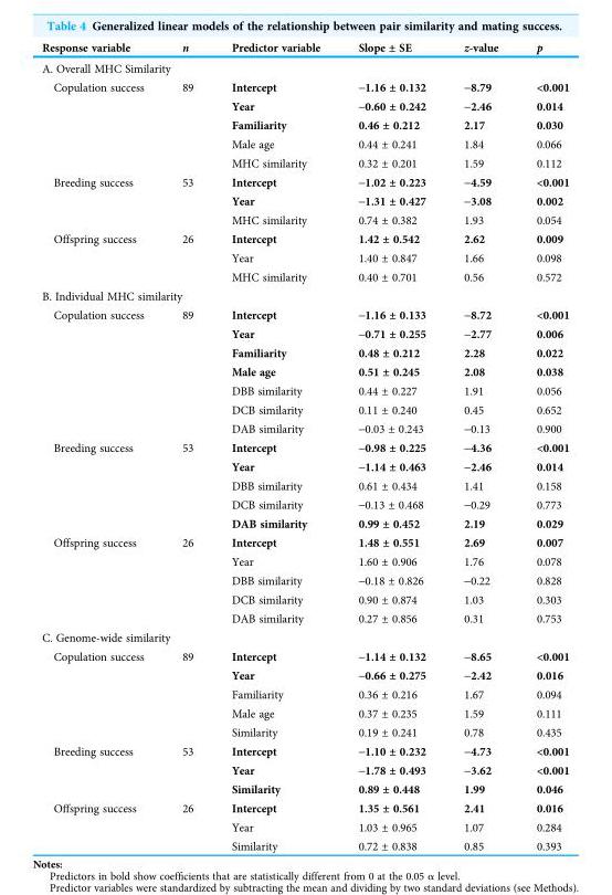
<table><thead><tr><td>Response variable</td><td>n</td><td>Predictor variable</td><td>Slope ± SE</td><td>z-value</td><td>p</td></tr></thead><tbody><tr><td colspan="6">A. Overall MHC Similarity</td></tr><tr><td rowspan="5">Copulation success</td><td>89</td><td>Intercept</td><td>-1.16 ± 0.132</td><td>-8.79</td><td>&lt;0.001</td></tr><tr><td></td><td>Year</td><td>-0.60 ± 0.242</td><td>-2.46</td><td>0.014</td></tr><tr><td></td><td>Familiarity</td><td>0.46 ± 0.212</td><td>2.17</td><td>0.030</td></tr><tr><td></td><td>Male age</td><td>0.44 ± 0.241</td><td>1.84</td><td>0.066</td></tr><tr><td></td><td>MHC similarity</td><td>0.32 ± 0.201</td><td>1.59</td><td>0.112</td></tr><tr><td rowspan="3">Breeding success</td><td>53</td><td>Intercept</td><td>-1.02 ± 0.223</td><td>-4.59</td><td>&lt;0.001</td></tr><tr><td></td><td>Year</td><td>-1.31 ± 0.427</td><td>-3.08</td><td>0.002</td></tr><tr><td></td><td>MHC similarity</td><td>0.74 ± 0.382</td><td>1.93</td><td>0.054</td></tr><tr><td rowspan="3">Offspring success</td><td>26</td><td>Intercept</td><td>1.42 ± 0.542</td><td>2.62</td><td>0.009</td></tr><tr><td></td><td>Year</td><td>1.40 ± 0.847</td><td>1.66</td><td>0.098</td></tr><tr><td></td><td>MHC similarity</td><td>0.40 ± 0.701</td><td>0.56</td><td>0.572</td></tr><tr><td colspan="6">B. Individual MHC similarity</td></tr><tr><td rowspan="7">Copulation success</td><td>89</td><td>Intercept</td><td>-1.16 ± 0.133</td><td>-8.72</td><td>&lt;0.001</td></tr><tr><td></td><td>Year</td><td>-0.71 ± 0.255</td><td>-2.77</td><td>0.006</td></tr><tr><td></td><td>Familiarity</td><td>0.48 ± 0.212</td><td>2.28</td><td>0.022</td></tr><tr><td></td><td>Male age</td><td>0.51 ± 0.245</td><td>2.08</td><td>0.038</td></tr><tr><td></td><td>DBB similarity</td><td>0.44 ± 0.227</td><td>1.91</td><td>0.056</td></tr><tr><td></td><td>DCB similarity</td><td>0.11 ± 0.240</td><td>0.45</td><td>0.652</td></tr><tr><td></td><td>DAB similarity</td><td>-0.03 ± 0.243</td><td>-0.13</td><td>0.900</td></tr><tr><td rowspan="5">Breeding success</td><td>53</td><td>Intercept</td><td>-0.98 ± 0.225</td><td>-4.36</td><td>&lt;0.001</td></tr><tr><td></td><td>Year</td><td>-1.14 ± 0.463</td><td>-2.46</td><td>0.014</td></tr><tr><td></td><td>DBB similarity</td><td>0.61 ± 0.434</td><td>1.41</td><td>0.158</td></tr><tr><td></td><td>DCB similarity</td><td>-0.13 ± 0.468</td><td>-0.29</td><td>0.773</td></tr><tr><td></td><td>DAB similarity</td><td>0.99 ± 0.452</td><td>2.19</td><td>0.029</td></tr><tr><td rowspan="5">Offspring success</td><td>26</td><td>Intercept</td><td>1.48 ± 0.551</td><td>2.69</td><td>0.007</td></tr><tr><td></td><td>Year</td><td>1.60 ± 0.906</td><td>1.76</td><td>0.078</td></tr><tr><td></td><td>DBB similarity</td><td>-0.18 ± 0.826</td><td>-0.22</td><td>0.828</td></tr><tr><td></td><td>DCB similarity</td><td>0.90 ± 0.874</td><td>1.03</td><td>0.303</td></tr><tr><td></td><td>DAB similarity</td><td>0.27 ± 0.856</td><td>0.31</td><td>0.753</td></tr><tr><td colspan="6">C. Genome-wide similarity</td></tr><tr><td rowspan="5">Copulation success</td><td>89</td><td>Intercept</td><td>-1.14 ± 0.132</td><td>-8.65</td><td>&lt;0.001</td></tr><tr><td></td><td>Year</td><td>-0.66 ± 0.275</td><td>-2.42</td><td>0.016</td></tr><tr><td></td><td>Familiarity</td><td>0.36 ± 0.216</td><td>1.67</td><td>0.094</td></tr><tr><td></td><td>Male age</td><td>0.37 ± 0.235</td><td>1.59</td><td>0.111</td></tr><tr><td></td><td>Similarity</td><td>0.19 ± 0.241</td><td>0.78</td><td>0.435</td></tr><tr><td rowspan="3">Breeding success</td><td>53</td><td>Intercept</td><td>-1.10 ± 0.232</td><td>-4.73</td><td>&lt;0.001</td></tr><tr><td></td><td>Year</td><td>-1.78 ± 0.493</td><td>-3.62</td><td>&lt;0.001</td></tr><tr><td></td><td>Similarity</td><td>0.89 ± 0.448</td><td>1.99</td><td>0.046</td></tr><tr><td rowspan="3">Offspring success</td><td>26</td><td>Intercept</td><td>1.35 ± 0.561</td><td>2.41</td><td>0.016</td></tr><tr><td></td><td>Year</td><td>1.03 ± 0.965</td><td>1.07</td><td>0.284</td></tr><tr><td></td><td>Similarity</td><td>0.72 ± 0.838</td><td>0.85</td><td>0.393</td></tr></tbody></table>